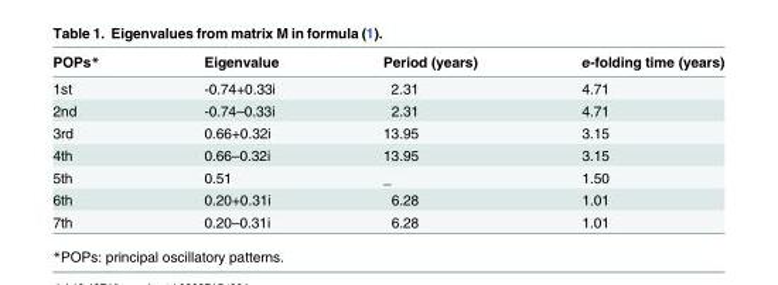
<table><thead><tr><td>POPs*</td><td>Eigenvalue</td><td>Period (years)</td><td>e-folding time (years)</td></tr></thead><tbody><tr><td>1st</td><td>-0.74+0.33i</td><td>2.31</td><td>4.71</td></tr><tr><td>2nd</td><td>-0.74–0.33i</td><td>2.31</td><td>4.71</td></tr><tr><td>3rd</td><td>0.66+0.32i</td><td>13.95</td><td>3.15</td></tr><tr><td>4th</td><td>0.66–0.32i</td><td>13.95</td><td>3.15</td></tr><tr><td>5th</td><td>0.51</td><td>_</td><td>1.50</td></tr><tr><td>6th</td><td>0.20+0.31i</td><td>6.28</td><td>1.01</td></tr><tr><td>7th</td><td>0.20–0.31i</td><td>6.28</td><td>1.01</td></tr></tbody></table>